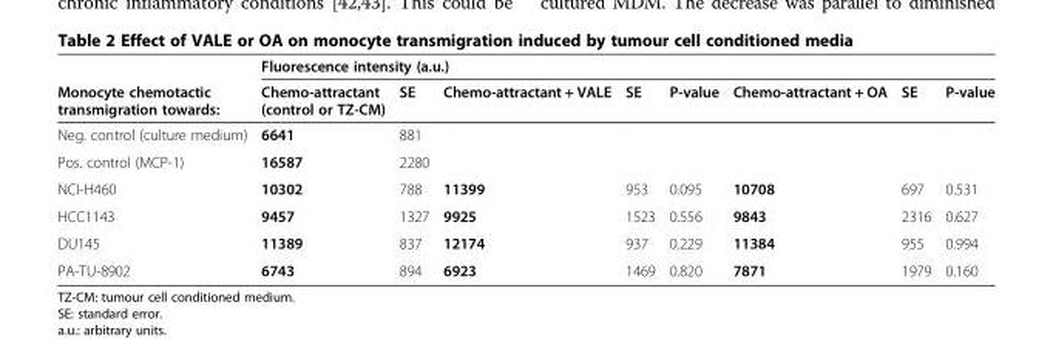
<table><thead><tr><td rowspan="2">Monocyte chemotactic transmigration towards:</td><td colspan="8">Fluorescence intensity (a.u.)</td></tr><tr><td>Chemo-attractant (control or TZ-CM)</td><td>SE</td><td>Chemo-attractant + VALE</td><td>SE</td><td>P-value</td><td>Chemo-attractant + OA</td><td>SE</td><td>P-value</td></tr></thead><tbody><tr><td>Neg. control (culture medium)</td><td>6641</td><td>881</td><td></td><td></td><td></td><td></td><td></td><td></td></tr><tr><td>Pos. control (MCP-1)</td><td>16587</td><td>2280</td><td></td><td></td><td></td><td></td><td></td><td></td></tr><tr><td>NCI-H460</td><td>10302</td><td>788</td><td>11399</td><td>953</td><td>0.095</td><td>10708</td><td>697</td><td>0.531</td></tr><tr><td>HCC1143</td><td>9457</td><td>1327</td><td>9925</td><td>1523</td><td>0.556</td><td>9843</td><td>2316</td><td>0.627</td></tr><tr><td>DU145</td><td>11389</td><td>837</td><td>12174</td><td>937</td><td>0.229</td><td>11384</td><td>955</td><td>0.994</td></tr><tr><td>PA-TU-8902</td><td>6743</td><td>894</td><td>6923</td><td>1469</td><td>0.820</td><td>7871</td><td>1979</td><td>0.160</td></tr></tbody></table>